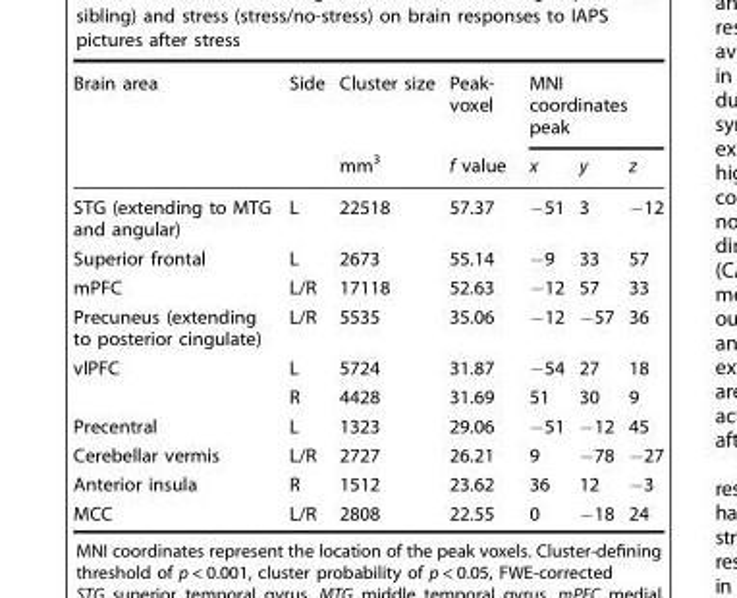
<table><thead><tr><td rowspan="2">Brain area</td><td rowspan="2">Side</td><td rowspan="2">Cluster size mm<sup>3</sup></td><td rowspan="2">Peak- voxel f value</td><td colspan="3">MNI coordinates peak</td></tr><tr><td>x</td><td>y</td><td>z</td></tr></thead><tbody><tr><td>STG (extending to MTG and angular)</td><td>L</td><td>22518</td><td>57.37</td><td>−51</td><td>3</td><td>−12</td></tr><tr><td>Superior frontal</td><td>L</td><td>2673</td><td>55.14</td><td>−9</td><td>33</td><td>57</td></tr><tr><td>mPFC</td><td>L/R</td><td>17118</td><td>52.63</td><td>−12</td><td>57</td><td>33</td></tr><tr><td>Precuneus (extending to posterior cingulate)</td><td>L/R</td><td>5535</td><td>35.06</td><td>−12</td><td>−57</td><td>36</td></tr><tr><td rowspan="2">vlPFC</td><td>L</td><td>5724</td><td>31.87</td><td>−54</td><td>27</td><td>18</td></tr><tr><td>R</td><td>4428</td><td>31.69</td><td>51</td><td>30</td><td>9</td></tr><tr><td>Precentral</td><td>L</td><td>1323</td><td>29.06</td><td>−51</td><td>−12</td><td>45</td></tr><tr><td>Cerebellar vermis</td><td>L/R</td><td>2727</td><td>26.21</td><td>9</td><td>−78</td><td>−27</td></tr><tr><td>Anterior insula</td><td>R</td><td>1512</td><td>23.62</td><td>36</td><td>12</td><td>−3</td></tr><tr><td>MCC</td><td>L/R</td><td>2808</td><td>22.55</td><td>0</td><td>−18</td><td>24</td></tr></tbody></table>